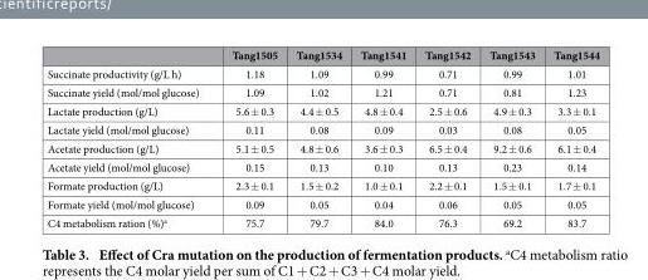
<table><thead><tr><td></td><td>Tang1505</td><td>Tang1534</td><td>Tang1541</td><td>Tang1542</td><td>Tang1543</td><td>Tang1544</td></tr></thead><tbody><tr><td>Succinate productivity (g/L h)</td><td>1.18</td><td>1.09</td><td>0.99</td><td>0.71</td><td>0.99</td><td>1.01</td></tr><tr><td>Succinate yield (mol/mol glucose)</td><td>1.09</td><td>1.02</td><td>1.21</td><td>0.71</td><td>0.81</td><td>1.23</td></tr><tr><td>Lactate production (g/L)</td><td>5.6 ± 0.3</td><td>4.4 ± 0.5</td><td>4.8 ± 0.4</td><td>2.5 ± 0.6</td><td>4.9 ± 0.3</td><td>3.3 ± 0.1</td></tr><tr><td>Lactate yield (mol/mol glucose)</td><td>0.11</td><td>0.08</td><td>0.09</td><td>0.03</td><td>0.08</td><td>0.05</td></tr><tr><td>Acetate production (g/L)</td><td>5.1 ± 0.5</td><td>4.8 ± 0.6</td><td>3.6 ± 0.3</td><td>6.5 ± 0.4</td><td>9.2 ± 0.6</td><td>6.1 ± 0.4</td></tr><tr><td>Acetate yield (mol/mol glucose)</td><td>0.15</td><td>0.13</td><td>0.10</td><td>0.13</td><td>0.23</td><td>0.14</td></tr><tr><td>Formate production (g/L)</td><td>2.3 ± 0.1</td><td>1.5 ± 0.2</td><td>1.0 ± 0.1</td><td>2.2 ± 0.1</td><td>1.5 ± 0.1</td><td>1.7 ± 0.1</td></tr><tr><td>Formate yield (mol/mol glucose)</td><td>0.09</td><td>0.05</td><td>0.04</td><td>0.06</td><td>0.05</td><td>0.05</td></tr><tr><td>C4 metabolism ration (%)<sup>a</sup></td><td>75.7</td><td>79.7</td><td>84.0</td><td>76.3</td><td>69.2</td><td>83.7</td></tr></tbody></table>